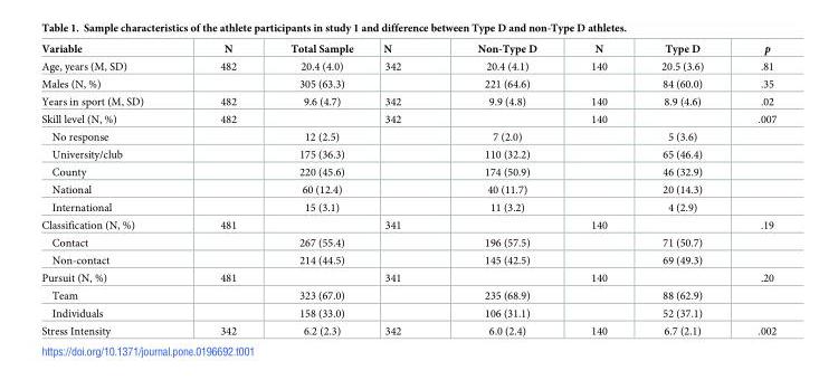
<table><thead><tr><td>Variable</td><td>N</td><td>Total Sample</td><td>N</td><td>Non-Type D</td><td>N</td><td>Type D</td><td>p</td></tr></thead><tbody><tr><td>Age, years (M, SD)</td><td>482</td><td>20.4 (4.0)</td><td>342</td><td>20.4 (4.1)</td><td>140</td><td>20.5 (3.6)</td><td>.81</td></tr><tr><td>Males (N, %)</td><td></td><td>305 (63.3)</td><td></td><td>221 (64.6)</td><td></td><td>84 (60.0)</td><td>.35</td></tr><tr><td>Years in sport (M, SD)</td><td>482</td><td>9.6 (4.7)</td><td>342</td><td>9.9 (4.8)</td><td>140</td><td>8.9 (4.6)</td><td>.02</td></tr><tr><td>Skill level (N, %)</td><td>482</td><td></td><td>342</td><td></td><td>140</td><td></td><td>.007</td></tr><tr><td>No response</td><td></td><td>12 (2.5)</td><td></td><td>7 (2.0)</td><td></td><td>5 (3.6)</td><td></td></tr><tr><td>University/club</td><td></td><td>175 (36.3)</td><td></td><td>110 (32.2)</td><td></td><td>65 (46.4)</td><td></td></tr><tr><td>County</td><td></td><td>220 (45.6)</td><td></td><td>174 (50.9)</td><td></td><td>46 (32.9)</td><td></td></tr><tr><td>National</td><td></td><td>60 (12.4)</td><td></td><td>40 (11.7)</td><td></td><td>20 (14.3)</td><td></td></tr><tr><td>International</td><td></td><td>15 (3.1)</td><td></td><td>11 (3.2)</td><td></td><td>4 (2.9)</td><td></td></tr><tr><td>Classification (N, %)</td><td>481</td><td></td><td>341</td><td></td><td>140</td><td></td><td>.19</td></tr><tr><td>Contact</td><td></td><td>267 (55.4)</td><td></td><td>196 (57.5)</td><td></td><td>71 (50.7)</td><td></td></tr><tr><td>Non-contact</td><td></td><td>214 (44.5)</td><td></td><td>145 (42.5)</td><td></td><td>69 (49.3)</td><td></td></tr><tr><td>Pursuit (N, %)</td><td>481</td><td></td><td>341</td><td></td><td>140</td><td></td><td>.20</td></tr><tr><td>Team</td><td></td><td>323 (67.0)</td><td></td><td>235 (68.9)</td><td></td><td>88 (62.9)</td><td></td></tr><tr><td>Individuals</td><td></td><td>158 (33.0)</td><td></td><td>106 (31.1)</td><td></td><td>52 (37.1)</td><td></td></tr><tr><td>Stress Intensity</td><td>342</td><td>6.2 (2.3)</td><td>342</td><td>6.0 (2.4)</td><td>140</td><td>6.7 (2.1)</td><td>.002</td></tr></tbody></table>